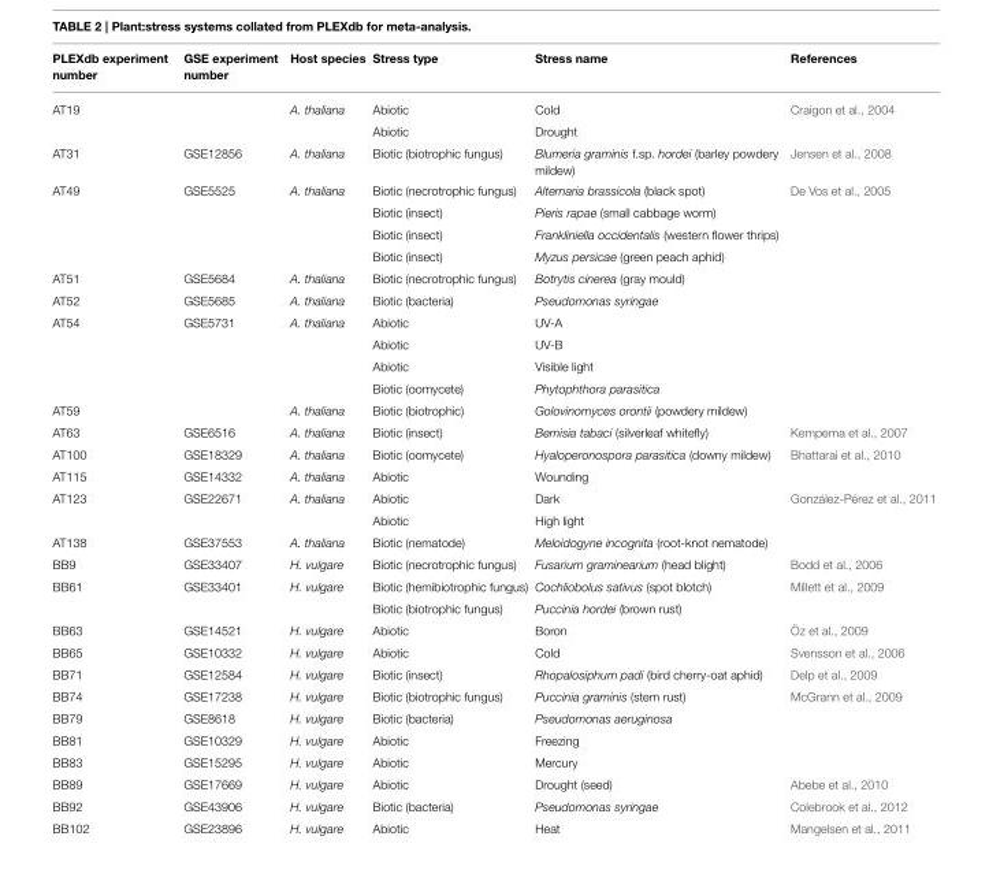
<table><thead><tr><td>PLEXdb experiment number</td><td>GSE experiment number</td><td>Host species</td><td>Stress type</td><td>Stress name</td><td>References</td></tr></thead><tbody><tr><td rowspan="2">AT19</td><td></td><td>A. thaliana</td><td>Abiotic</td><td>Cold</td><td>Craigon et al., 2004</td></tr><tr><td></td><td></td><td>Abiotic</td><td>Drought</td><td></td></tr><tr><td>AT31</td><td>GSE12856</td><td>A. thaliana</td><td>Biotic (biotrophic fungus)</td><td>Blumeria graminis f.sp. hordei (barley powdery mildew)</td><td>Jensen et al., 2008</td></tr><tr><td rowspan="4">AT49</td><td>GSE5525</td><td>A. thaliana</td><td>Biotic (necrotrophic fungus)</td><td>Alternaria brassicola (black spot)</td><td>De Vos et al., 2005</td></tr><tr><td></td><td></td><td>Biotic (insect)</td><td>Pieris rapae (small cabbage worm)</td><td></td></tr><tr><td></td><td></td><td>Biotic (insect)</td><td>Frankliniella occidentalis (western flower thrips)</td><td></td></tr><tr><td></td><td></td><td>Biotic (insect)</td><td>Myzus persicae (green peach aphid)</td><td></td></tr><tr><td>AT51</td><td>GSE5684</td><td>A. thaliana</td><td>Biotic (necrotrophic fungus)</td><td>Botrytis cinerea (gray mould)</td><td></td></tr><tr><td>AT52</td><td>GSE5685</td><td>A. thaliana</td><td>Biotic (bacteria)</td><td>Pseudomonas syringae</td><td></td></tr><tr><td rowspan="4">AT54</td><td>GSE5731</td><td>A. thaliana</td><td>Abiotic</td><td>UV-A</td><td></td></tr><tr><td></td><td></td><td>Abiotic</td><td>UV-B</td><td></td></tr><tr><td></td><td></td><td>Abiotic</td><td>Visible light</td><td></td></tr><tr><td></td><td></td><td>Biotic (oomycete)</td><td>Phytophthora parasitica</td><td></td></tr><tr><td>AT59</td><td></td><td>A. thaliana</td><td>Biotic (biotrophic)</td><td>Golovinomyces orontii (powdery mildew)</td><td></td></tr><tr><td>AT63</td><td>GSE6516</td><td>A. thaliana</td><td>Biotic (insect)</td><td>Bemisia tabaci (silverleaf whitefly)</td><td>Kempema et al., 2007</td></tr><tr><td>AT100</td><td>GSE18329</td><td>A. thaliana</td><td>Biotic (oomycete)</td><td>Hyaloperonospora parasitica (downy mildew)</td><td>Bhattarai et al., 2010</td></tr><tr><td>AT115</td><td>GSE14332</td><td>A. thaliana</td><td>Abiotic</td><td>Wounding</td><td></td></tr><tr><td rowspan="2">AT123</td><td>GSE22671</td><td>A. thaliana</td><td>Abiotic</td><td>Dark</td><td>González-Pérez et al., 2011</td></tr><tr><td></td><td></td><td>Abiotic</td><td>High light</td><td></td></tr><tr><td>AT138</td><td>GSE37553</td><td>A. thaliana</td><td>Biotic (nematode)</td><td>Meloidogyne incognita (root-knot nematode)</td><td></td></tr><tr><td>BB9</td><td>GSE33407</td><td>H. vulgare</td><td>Biotic (necrotrophic fungus)</td><td>Fusarium graminearium (head blight)</td><td>Bodd et al., 2006</td></tr><tr><td rowspan="2">BB61</td><td>GSE33401</td><td>H. vulgare</td><td>Biotic (hemibiotrophic fungus)</td><td>Cochliobolus sativus (spot blotch)</td><td>Millett et al., 2009</td></tr><tr><td></td><td></td><td>Biotic (biotrophic fungus)</td><td>Puccinia hordei (brown rust)</td><td></td></tr><tr><td>BB63</td><td>GSE14521</td><td>H. vulgare</td><td>Abiotic</td><td>Boron</td><td>Öz et al., 2009</td></tr><tr><td>BB65</td><td>GSE10332</td><td>H. vulgare</td><td>Abiotic</td><td>Cold</td><td>Svensson et al., 2006</td></tr><tr><td>BB71</td><td>GSE12584</td><td>H. vulgare</td><td>Biotic (insect)</td><td>Rhopalosiphum padi (bird cherry-oat aphid)</td><td>Delp et al., 2009</td></tr><tr><td>BB74</td><td>GSE17238</td><td>H. vulgare</td><td>Biotic (biotrophic fungus)</td><td>Puccinia graminis (stem rust)</td><td>McGrann et al., 2009</td></tr><tr><td>BB79</td><td>GSE8618</td><td>H. vulgare</td><td>Biotic (bacteria)</td><td>Pseudomonas aeruginosa</td><td></td></tr><tr><td>BB81</td><td>GSE10329</td><td>H. vulgare</td><td>Abiotic</td><td>Freezing</td><td></td></tr><tr><td>BB83</td><td>GSE15295</td><td>H. vulgare</td><td>Abiotic</td><td>Mercury</td><td></td></tr><tr><td>BB89</td><td>GSE17669</td><td>H. vulgare</td><td>Abiotic</td><td>Drought (seed)</td><td>Abebe et al., 2010</td></tr><tr><td>BB92</td><td>GSE43906</td><td>H. vulgare</td><td>Biotic (bacteria)</td><td>Pseudomonas syringae</td><td>Colebrook et al., 2012</td></tr><tr><td>BB102</td><td>GSE23896</td><td>H. vulgare</td><td>Abiotic</td><td>Heat</td><td>Mangelsen et al., 2011</td></tr></tbody></table>